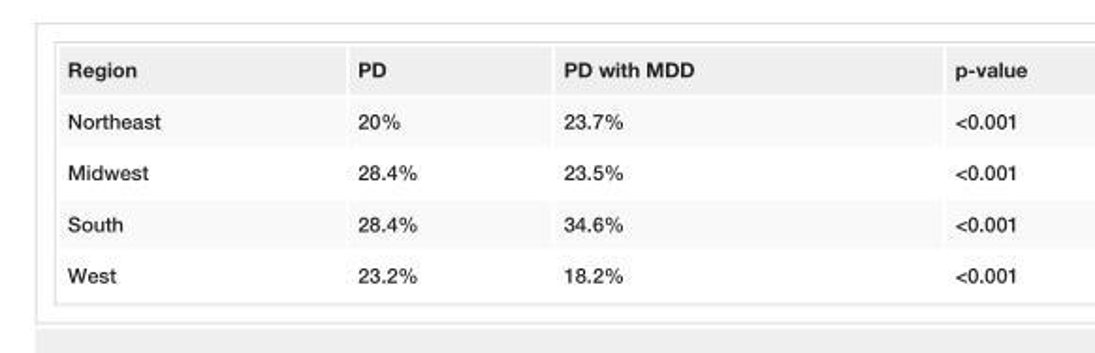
<table><tbody><tr><td>Region</td><td>PD</td><td>PD with MDD</td><td>p-value</td></tr><tr><td>Northeast</td><td>20%</td><td>23.7%</td><td>&lt;0.001</td></tr><tr><td>Midwest</td><td>28.4%</td><td>23.5%</td><td>&lt;0.001</td></tr><tr><td>South</td><td>28.4%</td><td>34.6%</td><td>&lt;0.001</td></tr><tr><td>West</td><td>23.2%</td><td>18.2%</td><td>&lt;0.001</td></tr></tbody></table>